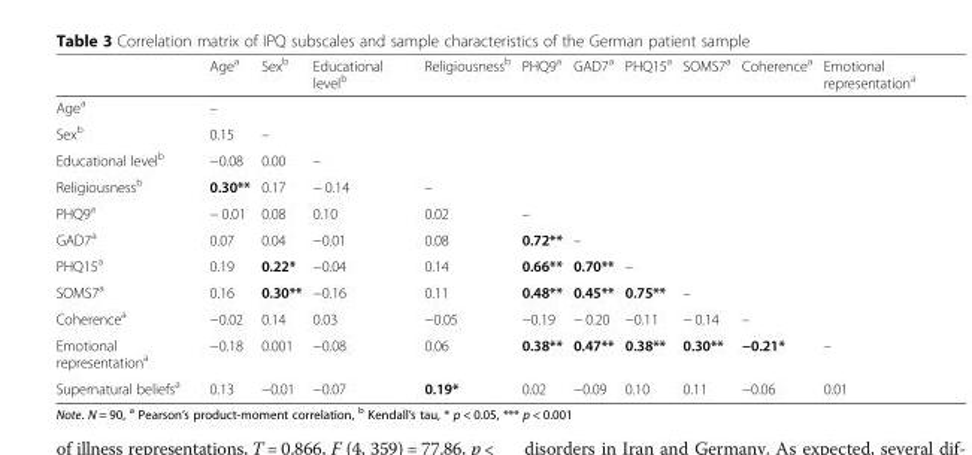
<table><thead><tr><td></td><td>Age<sup>a</sup></td><td>Sex<sup>b</sup></td><td>Educational level<sup>b</sup></td><td>Religiousness<sup>b</sup></td><td>PHQ9<sup>a</sup></td><td>GAD7<sup>a</sup></td><td>PHQ15<sup>a</sup></td><td>SOMS7<sup>a</sup></td><td>Coherence<sup>a</sup></td><td>Emotional representation<sup>a</sup></td></tr></thead><tbody><tr><td>Age<sup>a</sup></td><td>–</td><td></td><td></td><td></td><td></td><td></td><td></td><td></td><td></td><td></td></tr><tr><td>Sex<sup>b</sup></td><td>0.15</td><td>–</td><td></td><td></td><td></td><td></td><td></td><td></td><td></td><td></td></tr><tr><td>Educational level<sup>b</sup></td><td>−0.08</td><td>0.00</td><td>–</td><td></td><td></td><td></td><td></td><td></td><td></td><td></td></tr><tr><td>Religiousness<sup>b</sup></td><td>0.30**</td><td>0.17</td><td>− 0.14</td><td>–</td><td></td><td></td><td></td><td></td><td></td><td></td></tr><tr><td>PHQ9<sup>a</sup></td><td>− 0.01</td><td>0.08</td><td>0.10</td><td>0.02</td><td>–</td><td></td><td></td><td></td><td></td><td></td></tr><tr><td>GAD7<sup>a</sup></td><td>0.07</td><td>0.04</td><td>−0.01</td><td>0.08</td><td>0.72**</td><td>–</td><td></td><td></td><td></td><td></td></tr><tr><td>PHQ15<sup>a</sup></td><td>0.19</td><td>0.22*</td><td>−0.04</td><td>0.14</td><td>0.66**</td><td>0.70**</td><td>–</td><td></td><td></td><td></td></tr><tr><td>SOMS7<sup>a</sup></td><td>0.16</td><td>0.30**</td><td>−0.16</td><td>0.11</td><td>0.48**</td><td>0.45**</td><td>0.75**</td><td>–</td><td></td><td></td></tr><tr><td>Coherence<sup>a</sup></td><td>−0.02</td><td>0.14</td><td>0.03</td><td>−0.05</td><td>−0.19</td><td>− 0.20</td><td>−0.11</td><td>− 0.14</td><td>–</td><td></td></tr><tr><td>Emotional representation<sup>a</sup></td><td>−0.18</td><td>0.001</td><td>−0.08</td><td>0.06</td><td>0.38**</td><td>0.47**</td><td>0.38**</td><td>0.30**</td><td>−0.21*</td><td>–</td></tr><tr><td>Supernatural beliefs<sup>a</sup></td><td>0.13</td><td>−0.01</td><td>−0.07</td><td>0.19*</td><td>0.02</td><td>−0.09</td><td>0.10</td><td>0.11</td><td>−0.06</td><td>0.01</td></tr></tbody></table>